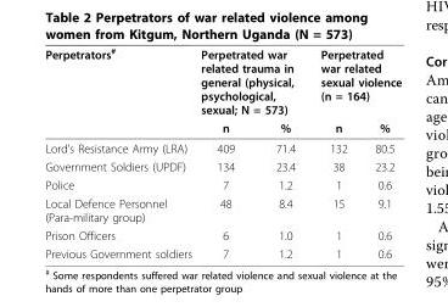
<table><thead><tr><td rowspan="2">Perpetrators<sup>#</sup></td><td colspan="2">Perpetrated war related trauma in general (physical, psychological, sexual; N = 573)</td><td colspan="2">Perpetrated war related sexual violence (n = 164)</td></tr><tr><td>n</td><td>%</td><td>n</td><td>%</td></tr></thead><tbody><tr><td>Lord’s Resistance Army (LRA)</td><td>409</td><td>71.4</td><td>132</td><td>80.5</td></tr><tr><td>Government Soldiers (UPDF)</td><td>134</td><td>23.4</td><td>38</td><td>23.2</td></tr><tr><td>Police</td><td>7</td><td>1.2</td><td>1</td><td>0.6</td></tr><tr><td>Local Defence Personnel (Para-military group)</td><td>48</td><td>8.4</td><td>15</td><td>9.1</td></tr><tr><td>Prison Officers</td><td>6</td><td>1.0</td><td>1</td><td>0.6</td></tr><tr><td>Previous Government soldiers</td><td>7</td><td>1.2</td><td>1</td><td>0.6</td></tr></tbody></table>